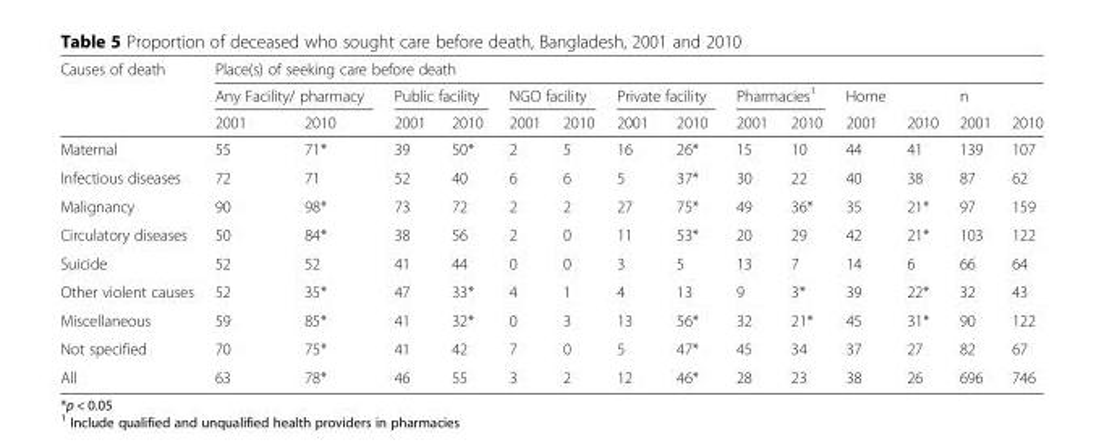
<table><thead><tr><td rowspan="3">Causes of death</td><td colspan="14">Place(s) of seeking care before death</td></tr><tr><td colspan="2">Any Facility/ pharmacy</td><td colspan="2">Public facility</td><td colspan="2">NGO facility</td><td colspan="2">Private facility</td><td colspan="2">Pharmacies<sup>1</sup></td><td rowspan="2">Home 2001</td><td rowspan="2">2010</td><td rowspan="2">n 2001</td><td rowspan="2">2010</td></tr><tr><td>2001</td><td>2010</td><td>2001</td><td>2010</td><td>2001</td><td>2010</td><td>2001</td><td>2010</td><td>2001</td><td>2010</td></tr></thead><tbody><tr><td>Maternal</td><td>55</td><td>71*</td><td>39</td><td>50*</td><td>2</td><td>5</td><td>16</td><td>26*</td><td>15</td><td>10</td><td>44</td><td>41</td><td>139</td><td>107</td></tr><tr><td>Infectious diseases</td><td>72</td><td>71</td><td>52</td><td>40</td><td>6</td><td>6</td><td>5</td><td>37*</td><td>30</td><td>22</td><td>40</td><td>38</td><td>87</td><td>62</td></tr><tr><td>Malignancy</td><td>90</td><td>98*</td><td>73</td><td>72</td><td>2</td><td>2</td><td>27</td><td>75*</td><td>49</td><td>36*</td><td>35</td><td>21*</td><td>97</td><td>159</td></tr><tr><td>Circulatory diseases</td><td>50</td><td>84*</td><td>38</td><td>56</td><td>2</td><td>0</td><td>11</td><td>53*</td><td>20</td><td>29</td><td>42</td><td>21*</td><td>103</td><td>122</td></tr><tr><td>Suicide</td><td>52</td><td>52</td><td>41</td><td>44</td><td>0</td><td>0</td><td>3</td><td>5</td><td>13</td><td>7</td><td>14</td><td>6</td><td>66</td><td>64</td></tr><tr><td>Other violent causes</td><td>52</td><td>35*</td><td>47</td><td>33*</td><td>4</td><td>1</td><td>4</td><td>13</td><td>9</td><td>3*</td><td>39</td><td>22*</td><td>32</td><td>43</td></tr><tr><td>Miscellaneous</td><td>59</td><td>85*</td><td>41</td><td>32*</td><td>0</td><td>3</td><td>13</td><td>56*</td><td>32</td><td>21*</td><td>45</td><td>31*</td><td>90</td><td>122</td></tr><tr><td>Not specified</td><td>70</td><td>75*</td><td>41</td><td>42</td><td>7</td><td>0</td><td>5</td><td>47*</td><td>45</td><td>34</td><td>37</td><td>27</td><td>82</td><td>67</td></tr><tr><td>All</td><td>63</td><td>78*</td><td>46</td><td>55</td><td>3</td><td>2</td><td>12</td><td>46*</td><td>28</td><td>23</td><td>38</td><td>26</td><td>696</td><td>746</td></tr></tbody></table>